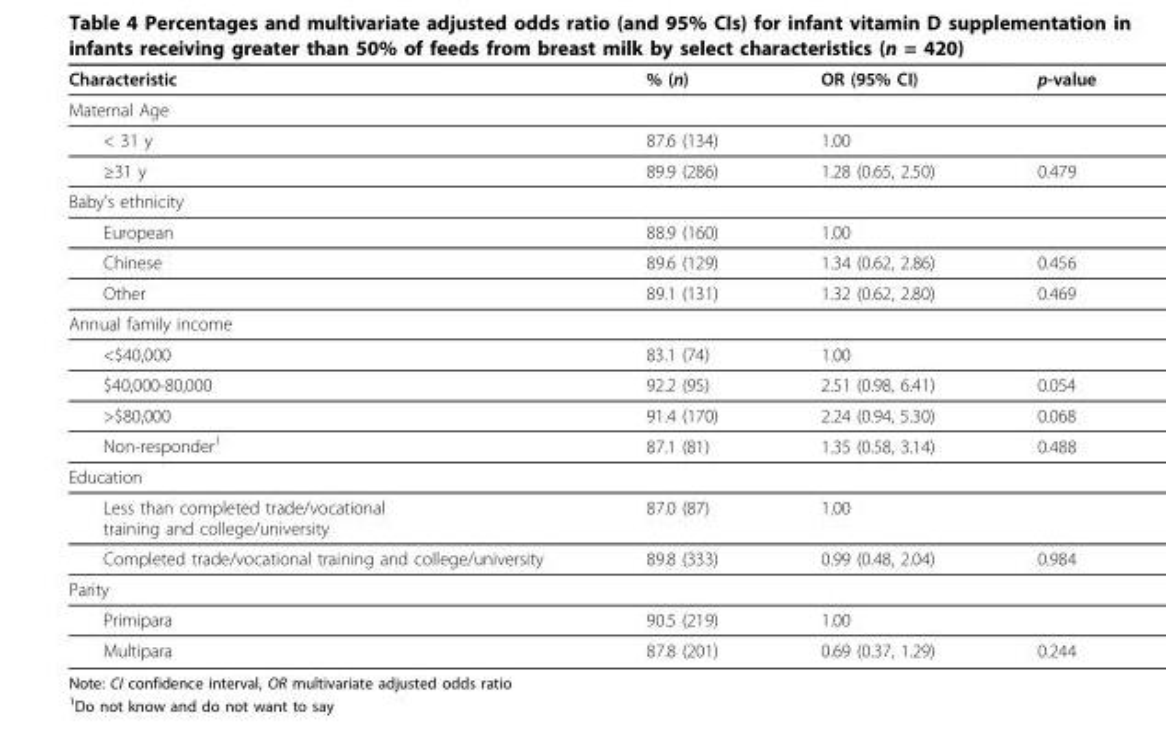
<table><thead><tr><td>Characteristic</td><td>% (n)</td><td>OR (95% CI)</td><td>p-value</td></tr></thead><tbody><tr><td colspan="4">Maternal Age</td></tr><tr><td>&lt; 31 y</td><td>87.6 (134)</td><td>1.00</td><td></td></tr><tr><td>≥31 y</td><td>89.9 (286)</td><td>1.28 (0.65, 2.50)</td><td>0.479</td></tr><tr><td colspan="4">Baby’s ethnicity</td></tr><tr><td>European</td><td>88.9 (160)</td><td>1.00</td><td></td></tr><tr><td>Chinese</td><td>89.6 (129)</td><td>1.34 (0.62, 2.86)</td><td>0.456</td></tr><tr><td>Other</td><td>89.1 (131)</td><td>1.32 (0.62, 2.80)</td><td>0.469</td></tr><tr><td colspan="4">Annual family income</td></tr><tr><td>&lt;$40,000</td><td>83.1 (74)</td><td>1.00</td><td></td></tr><tr><td>$40,000-80,000</td><td>92.2 (95)</td><td>2.51 (0.98, 6.41)</td><td>0.054</td></tr><tr><td>&gt;$80,000</td><td>91.4 (170)</td><td>2.24 (0.94, 5.30)</td><td>0.068</td></tr><tr><td>Non-responder<sup>1</sup></td><td>87.1 (81)</td><td>1.35 (0.58, 3.14)</td><td>0.488</td></tr><tr><td colspan="4">Education</td></tr><tr><td>Less than completed trade/vocational training and college/university</td><td>87.0 (87)</td><td>1.00</td><td></td></tr><tr><td>Completed trade/vocational training and college/university</td><td>89.8 (333)</td><td>0.99 (0.48, 2.04)</td><td>0.984</td></tr><tr><td colspan="4">Parity</td></tr><tr><td>Primipara</td><td>90.5 (219)</td><td>1.00</td><td></td></tr><tr><td>Multipara</td><td>87.8 (201)</td><td>0.69 (0.37, 1.29)</td><td>0.244</td></tr></tbody></table>